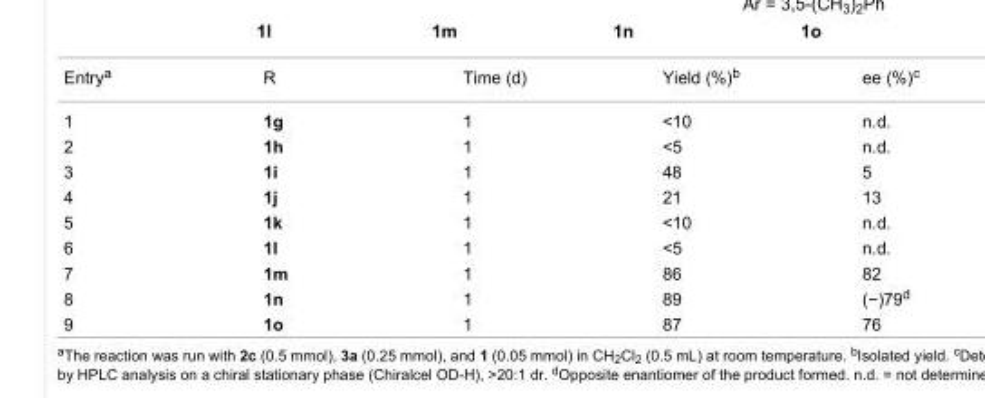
<table><tbody><tr><td>Entry<sup>a</sup></td><td>R</td><td>Time (d)</td><td>Yield (%)<sup>b</sup></td><td>ee (%)<sup>c</sup></td></tr><tr><td>1</td><td>1g</td><td>1</td><td>&lt;10</td><td>n.d.</td></tr><tr><td>2</td><td>1h</td><td>1</td><td>&lt;5</td><td>n.d.</td></tr><tr><td>3</td><td>1i</td><td>1</td><td>48</td><td>5</td></tr><tr><td>4</td><td>1j</td><td>1</td><td>21</td><td>13</td></tr><tr><td>5</td><td>1k</td><td>1</td><td>&lt;10</td><td>n.d.</td></tr><tr><td>6</td><td>1l</td><td>1</td><td>&lt;5</td><td>n.d.</td></tr><tr><td>7</td><td>1m</td><td>1</td><td>86</td><td>82</td></tr><tr><td>8</td><td>1n</td><td>1</td><td>89</td><td>(−)79<sup>d</sup></td></tr><tr><td>9</td><td>1o</td><td>1</td><td>87</td><td>76</td></tr></tbody></table>